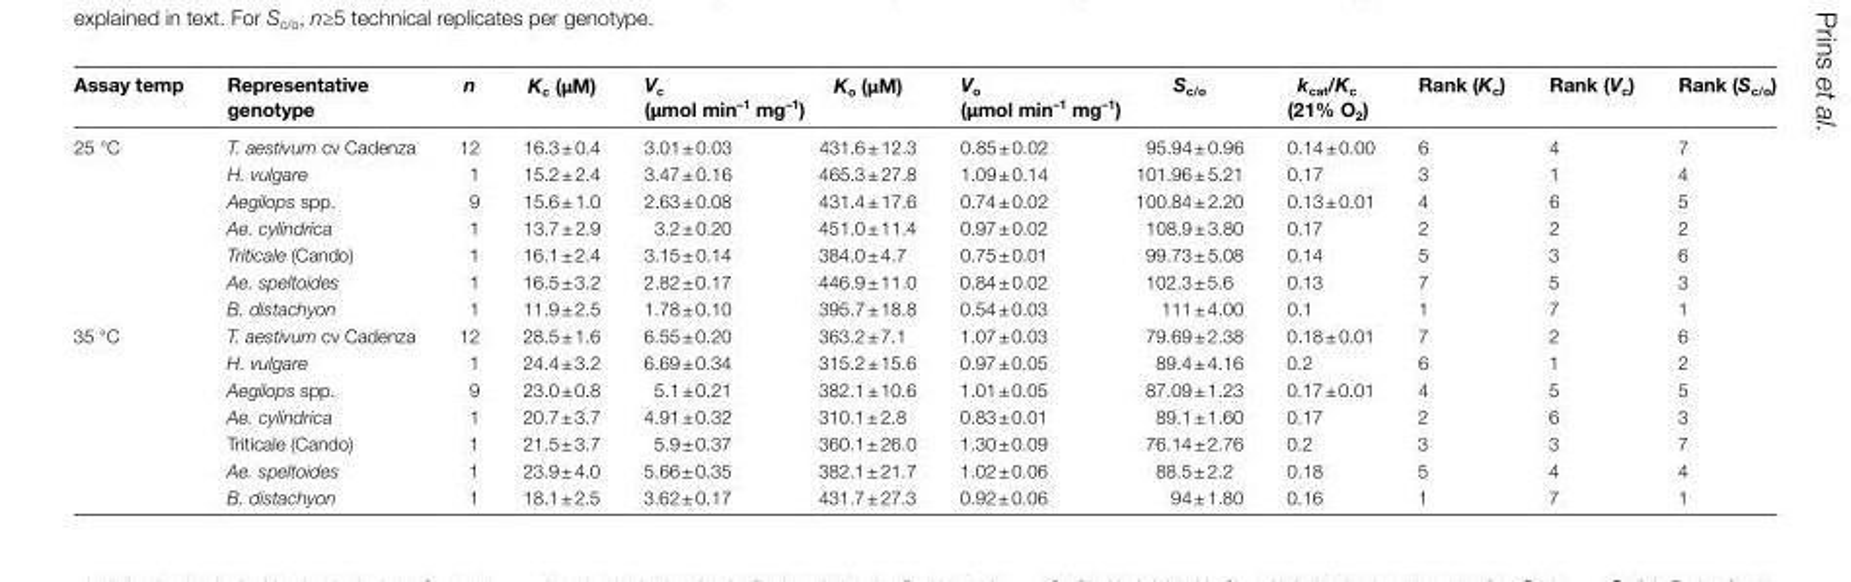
<table><thead><tr><td>Assay temp</td><td>Representative genotype</td><td>n</td><td>K<sub>c</sub> (µM)</td><td>V<sub>c</sub> (µmol min<sup>–1</sup> mg<sup>–1</sup>)</td><td>K<sub>o</sub> (µM)</td><td>V<sub>o</sub> (µmol min<sup>–1</sup> mg<sup>–1</sup>)</td><td>S<sub>c/o</sub></td><td>k<sub>cat</sub>/K<sub>c</sub> (21% O<sub>2</sub>)</td><td>Rank (K<sub>c</sub>)</td><td>Rank (V<sub>c</sub>)</td><td>Rank (S<sub>c/o</sub>)</td></tr></thead><tbody><tr><td rowspan="7">25 °C</td><td>T. aestivum cv Cadenza</td><td>12</td><td>16.3 ± 0.4</td><td>3.01 ± 0.03</td><td>431.6 ± 12.3</td><td>0.85 ± 0.02</td><td>95.94 ± 0.96</td><td>0.14 ± 0.00</td><td>6</td><td>4</td><td>7</td></tr><tr><td>H. vulgare</td><td>1</td><td>15.2 ± 2.4</td><td>3.47 ± 0.16</td><td>465.3 ± 27.8</td><td>1.09 ± 0.14</td><td>101.96 ± 5.21</td><td>0.17</td><td>3</td><td>1</td><td>4</td></tr><tr><td>Aegilops spp.</td><td>9</td><td>15.6 ± 1.0</td><td>2.63 ± 0.08</td><td>431.4 ± 17.6</td><td>0.74 ± 0.02</td><td>100.84 ± 2.20</td><td>0.13 ± 0.01</td><td>4</td><td>6</td><td>5</td></tr><tr><td>Ae. cylindrica</td><td>1</td><td>13.7 ± 2.9</td><td>3.2 ± 0.20</td><td>451.0 ± 11.4</td><td>0.97 ± 0.02</td><td>108.9 ± 3.80</td><td>0.17</td><td>2</td><td>2</td><td>2</td></tr><tr><td>Triticale (Cando)</td><td>1</td><td>16.1 ± 2.4</td><td>3.15 ± 0.14</td><td>384.0 ± 4.7</td><td>0.75 ± 0.01</td><td>99.73 ± 5.08</td><td>0.14</td><td>5</td><td>3</td><td>6</td></tr><tr><td>Ae. speltoides</td><td>1</td><td>16.5 ± 3.2</td><td>2.82 ± 0.17</td><td>446.9 ± 11.0</td><td>0.84 ± 0.02</td><td>102.3 ± 5.6</td><td>0.13</td><td>7</td><td>5</td><td>3</td></tr><tr><td>B. distachyon</td><td>1</td><td>11.9 ± 2.5</td><td>1.78 ± 0.10</td><td>395.7 ± 18.8</td><td>0.54 ± 0.03</td><td>111 ± 4.00</td><td>0.1</td><td>1</td><td>7</td><td>1</td></tr><tr><td rowspan="7">35 °C</td><td>T. aestivum cv Cadenza</td><td>12</td><td>28.5 ± 1.6</td><td>6.55 ± 0.20</td><td>363.2 ± 7.1</td><td>1.07 ± 0.03</td><td>79.69 ± 2.38</td><td>0.18 ± 0.01</td><td>7</td><td>2</td><td>6</td></tr><tr><td>H. vulgare</td><td>1</td><td>24.4 ± 3.2</td><td>6.69 ± 0.34</td><td>315.2 ± 15.6</td><td>0.97 ± 0.05</td><td>89.4 ± 4.16</td><td>0.2</td><td>6</td><td>1</td><td>2</td></tr><tr><td>Aegilops spp.</td><td>9</td><td>23.0 ± 0.8</td><td>5.1 ± 0.21</td><td>382.1 ± 10.6</td><td>1.01 ± 0.05</td><td>87.09 ± 1.23</td><td>0.17 ± 0.01</td><td>4</td><td>5</td><td>5</td></tr><tr><td>Ae. cylindrica</td><td>1</td><td>20.7 ± 3.7</td><td>4.91 ± 0.32</td><td>310.1 ± 2.8</td><td>0.83 ± 0.01</td><td>89.1 ± 1.60</td><td>0.17</td><td>2</td><td>6</td><td>3</td></tr><tr><td>Triticale (Cando)</td><td>1</td><td>21.5 ± 3.7</td><td>5.9 ± 0.37</td><td>360.1 ± 26.0</td><td>1.30 ± 0.09</td><td>76.14 ± 2.76</td><td>0.2</td><td>3</td><td>3</td><td>7</td></tr><tr><td>Ae. speltoides</td><td>1</td><td>23.9 ± 4.0</td><td>5.66 ± 0.35</td><td>382.1 ± 21.7</td><td>1.02 ± 0.06</td><td>88.5 ± 2.2</td><td>0.18</td><td>5</td><td>4</td><td>4</td></tr><tr><td>B. distachyon</td><td>1</td><td>18.1 ± 2.5</td><td>3.62 ± 0.17</td><td>431.7 ± 27.3</td><td>0.92 ± 0.06</td><td>94 ± 1.80</td><td>0.16</td><td>1</td><td>7</td><td>1</td></tr></tbody></table>